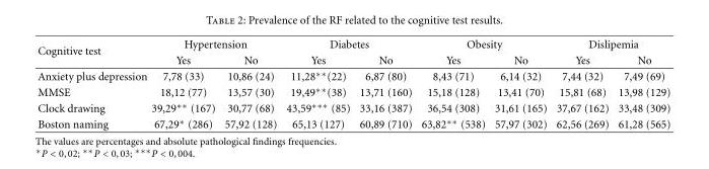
<table><thead><tr><td rowspan="2">Cognitive test</td><td colspan="2">Hypertension</td><td colspan="2">Diabetes</td><td colspan="2">Obesity</td><td colspan="2">Dislipemia</td></tr><tr><td>Yes</td><td>No</td><td>Yes</td><td>No</td><td>Yes</td><td>No</td><td>Yes</td><td>No</td></tr></thead><tbody><tr><td>Anxiety plus depression</td><td>7,78 (33)</td><td>10,86 (24)</td><td>11,28∗∗(22)</td><td>6,87 (80)</td><td>8,43 (71)</td><td>6,14 (32)</td><td>7,44 (32)</td><td>7,49 (69)</td></tr><tr><td>MMSE</td><td>18,12 (77)</td><td>13,57 (30)</td><td>19,49∗∗(38)</td><td>13,71 (160)</td><td>15,18 (128)</td><td>13,41 (70)</td><td>15,81 (68)</td><td>13,98 (129)</td></tr><tr><td>Clock drawing</td><td>39,29∗∗ (167)</td><td>30,77 (68)</td><td>43,59∗∗∗ (85)</td><td>33,16 (387)</td><td>36,54 (308)</td><td>31,61 (165)</td><td>37,67 (162)</td><td>33,48 (309)</td></tr><tr><td>Boston naming</td><td>67,29∗ (286)</td><td>57,92 (128)</td><td>65,13 (127)</td><td>60,89 (710)</td><td>63,82∗∗ (538)</td><td>57,97 (302)</td><td>62,56 (269)</td><td>61,28 (565)</td></tr></tbody></table>